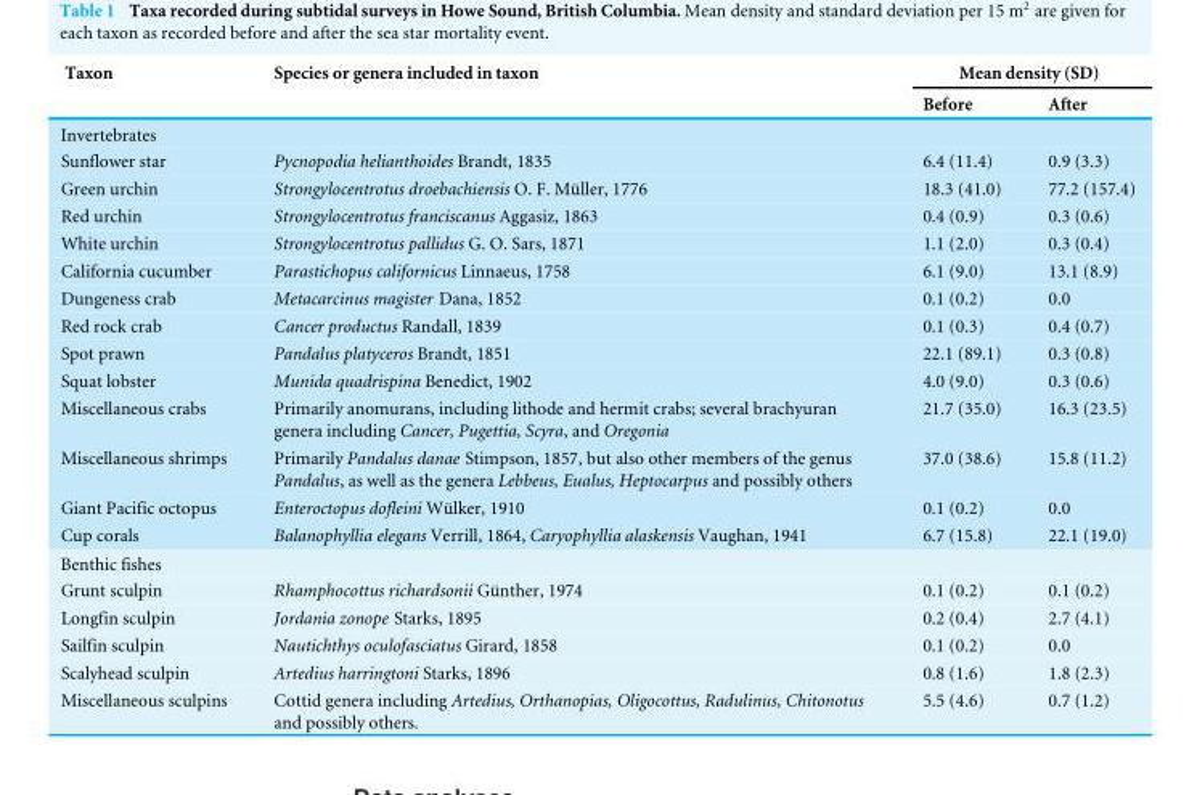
<table><thead><tr><td rowspan="2">Taxon</td><td rowspan="2">Species or genera included in taxon</td><td colspan="2">Mean density (SD)</td></tr><tr><td>Before</td><td>After</td></tr></thead><tbody><tr><td colspan="4">Invertebrates</td></tr><tr><td>Sunflower star</td><td>Pycnopodia helianthoides Brandt, 1835</td><td>6.4 (11.4)</td><td>0.9 (3.3)</td></tr><tr><td>Green urchin</td><td>Strongylocentrotus droebachiensis O. F. Müller, 1776</td><td>18.3 (41.0)</td><td>77.2 (157.4)</td></tr><tr><td>Red urchin</td><td>Strongylocentrotus franciscanus Aggasiz, 1863</td><td>0.4 (0.9)</td><td>0.3 (0.6)</td></tr><tr><td>White urchin</td><td>Strongylocentrotus pallidus G. O. Sars, 1871</td><td>1.1 (2.0)</td><td>0.3 (0.4)</td></tr><tr><td>California cucumber</td><td>Parastichopus californicus Linnaeus, 1758</td><td>6.1 (9.0)</td><td>13.1 (8.9)</td></tr><tr><td>Dungeness crab</td><td>Metacarcinus magister Dana, 1852</td><td>0.1 (0.2)</td><td>0.0</td></tr><tr><td>Red rock crab</td><td>Cancer productus Randall, 1839</td><td>0.1 (0.3)</td><td>0.4 (0.7)</td></tr><tr><td>Spot prawn</td><td>Pandalus platyceros Brandt, 1851</td><td>22.1 (89.1)</td><td>0.3 (0.8)</td></tr><tr><td>Squat lobster</td><td>Munida quadrispina Benedict, 1902</td><td>4.0 (9.0)</td><td>0.3 (0.6)</td></tr><tr><td>Miscellaneous crabs</td><td>Primarily anomurans, including lithode and hermit crabs; several brachyuran genera including Cancer, Pugettia, Scyra, and Oregonia</td><td>21.7 (35.0)</td><td>16.3 (23.5)</td></tr><tr><td>Miscellaneous shrimps</td><td>Primarily Pandalus danae Stimpson, 1857, but also other members of the genus Pandalus, as well as the genera Lebbeus, Eualus, Heptocarpus and possibly others</td><td>37.0 (38.6)</td><td>15.8 (11.2)</td></tr><tr><td>Giant Pacific octopus</td><td>Enteroctopus dofleini Wülker, 1910</td><td>0.1 (0.2)</td><td>0.0</td></tr><tr><td>Cup corals</td><td>Balanophyllia elegans Verrill, 1864, Caryophyllia alaskensis Vaughan, 1941</td><td>6.7 (15.8)</td><td>22.1 (19.0)</td></tr><tr><td colspan="4">Benthic fishes</td></tr><tr><td>Grunt sculpin</td><td>Rhamphocottus richardsonii Günther, 1974</td><td>0.1 (0.2)</td><td>0.1 (0.2)</td></tr><tr><td>Longfin sculpin</td><td>Jordania zonope Starks, 1895</td><td>0.2 (0.4)</td><td>2.7 (4.1)</td></tr><tr><td>Sailfin sculpin</td><td>Nautichthys oculofasciatus Girard, 1858</td><td>0.1 (0.2)</td><td>0.0</td></tr><tr><td>Scalyhead sculpin</td><td>Artedius harringtoni Starks, 1896</td><td>0.8 (1.6)</td><td>1.8 (2.3)</td></tr><tr><td>Miscellaneous sculpins</td><td>Cottid genera including Artedius, Orthanopias, Oligocottus, Radulinus, Chitonotus and possibly others.</td><td>5.5 (4.6)</td><td>0.7 (1.2)</td></tr></tbody></table>